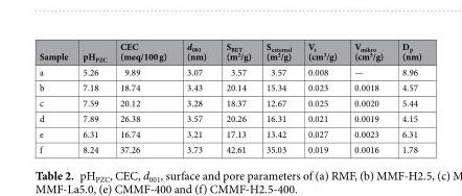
<table><thead><tr><td>Sample</td><td>pH<sub>PZC</sub></td><td>CEC (meq/100 g)</td><td>d<sub>001</sub> (nm)</td><td>S<sub>BET</sub> (m<sup>2</sup>/g)</td><td>S<sub>external</sub> (m<sup>2</sup>/g)</td><td>V<sub>t</sub> (cm<sup>3</sup>/g)</td><td>V<sub>mikro</sub> (cm<sup>3</sup>/g)</td><td>D<sub>p</sub> (nm)</td></tr></thead><tbody><tr><td>a</td><td>5.26</td><td>9.89</td><td>3.07</td><td>3.57</td><td>3.57</td><td>0.008</td><td>—</td><td>8.96</td></tr><tr><td>b</td><td>7.18</td><td>18.74</td><td>3.43</td><td>20.14</td><td>15.34</td><td>0.023</td><td>0.0018</td><td>4.57</td></tr><tr><td>c</td><td>7.59</td><td>20.12</td><td>3.28</td><td>18.37</td><td>12.67</td><td>0.025</td><td>0.0020</td><td>5.44</td></tr><tr><td>d</td><td>7.89</td><td>26.38</td><td>3.57</td><td>20.26</td><td>16.31</td><td>0.021</td><td>0.0019</td><td>4.15</td></tr><tr><td>e</td><td>6.31</td><td>16.74</td><td>3.21</td><td>17.13</td><td>13.42</td><td>0.027</td><td>0.0023</td><td>6.31</td></tr><tr><td>f</td><td>8.24</td><td>37.26</td><td>3.73</td><td>42.61</td><td>35.03</td><td>0.019</td><td>0.0016</td><td>1.78</td></tr></tbody></table>